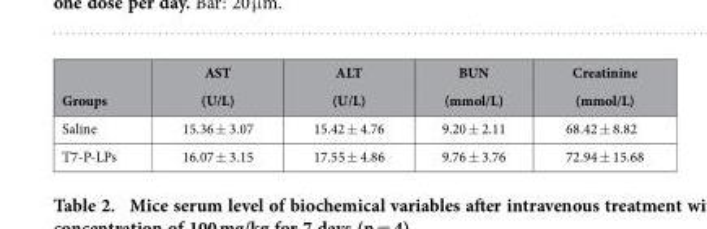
<table><thead><tr><td rowspan="2">Groups</td><td rowspan="2">AST (U/L)</td><td rowspan="2">ALT (U/L)</td><td rowspan="2">BUN (mmol/L)</td><td rowspan="2">Creatinine (mmol/L)</td></tr><tr></tr></thead><tbody><tr><td>Saline</td><td>15.36 ± 3.07</td><td>15.42 ± 4.76</td><td>9.20 ± 2.11</td><td>68.42 ± 8.82</td></tr><tr><td>T7-P-LPs</td><td>16.07 ± 3.15</td><td>17.55 ± 4.86</td><td>9.76 ± 3.76</td><td>72.94 ± 15.68</td></tr></tbody></table>